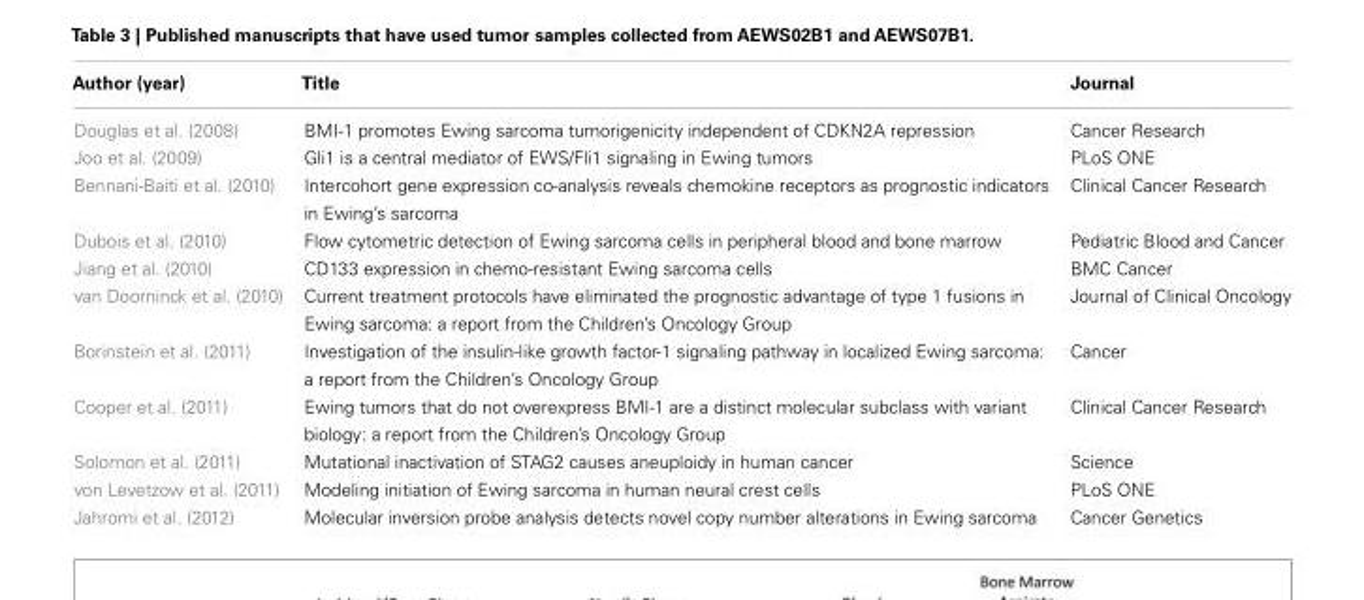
<table><thead><tr><td>Author (year)</td><td>Title</td><td>Journal</td></tr></thead><tbody><tr><td>Douglas et al. (2008)</td><td>BMI-1 promotes Ewing sarcoma tumorigenicity independent of CDKN2A repression</td><td>Cancer Research</td></tr><tr><td>Joo et al. (2009)</td><td>Gli1 is a central mediator of EWS/Fli1 signaling in Ewing tumors</td><td>PLoS ONE</td></tr><tr><td>Bennani-Baiti et al. (2010)</td><td>Intercohort gene expression co-analysis reveals chemokine receptors as prognostic indicators in Ewing’s sarcoma</td><td>Clinical Cancer Research</td></tr><tr><td>Dubois et al. (2010)</td><td>Flow cytometric detection of Ewing sarcoma cells in peripheral blood and bone marrow</td><td>Pediatric Blood and Cancer</td></tr><tr><td>Jiang et al. (2010)</td><td>CD133 expression in chemo-resistant Ewing sarcoma cells</td><td>BMC Cancer</td></tr><tr><td>van Doorninck et al. (2010)</td><td>Current treatment protocols have eliminated the prognostic advantage of type 1 fusions in Ewing sarcoma: a report from the Children’s Oncology Group</td><td>Journal of Clinical Oncology</td></tr><tr><td>Borinstein et al. (2011)</td><td>Investigation of the insulin-like growth factor-1 signaling pathway in localized Ewing sarcoma: a report from the Children’s Oncology Group</td><td>Cancer</td></tr><tr><td>Cooper et al. (2011)</td><td>Ewing tumors that do not overexpress BMI-1 are a distinct molecular subclass with variant biology: a report from the Children’s Oncology Group</td><td>Clinical Cancer Research</td></tr><tr><td>Solomon et al. (2011)</td><td>Mutational inactivation of STAG2 causes aneuploidy in human cancer</td><td>Science</td></tr><tr><td>von Levetzow et al. (2011)</td><td>Modeling initiation of Ewing sarcoma in human neural crest cells</td><td>PLoS ONE</td></tr><tr><td>Jahromi et al. (2012)</td><td>Molecular inversion probe analysis detects novel copy number alterations in Ewing sarcoma</td><td>Cancer Genetics</td></tr></tbody></table>